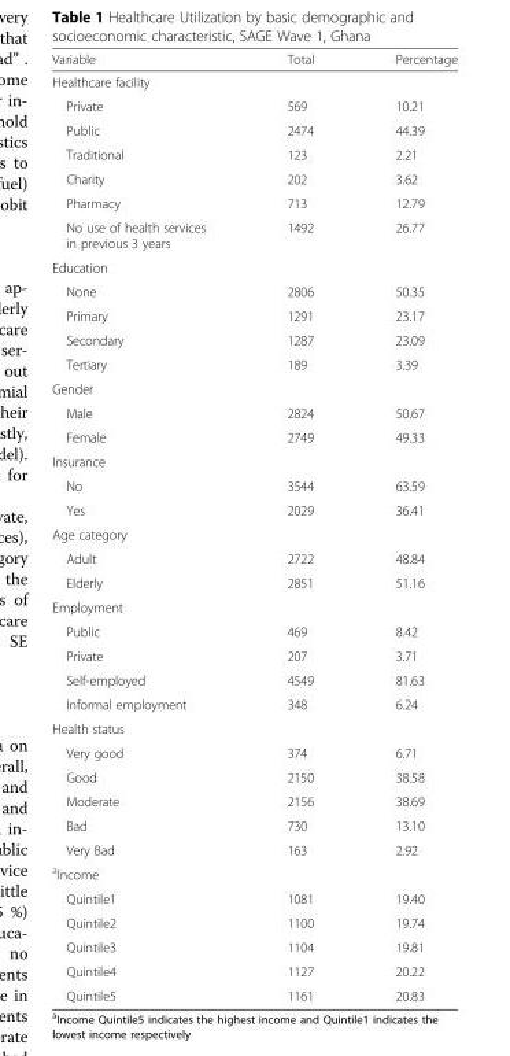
<table><thead><tr><td>Variable</td><td>Total</td><td>Percentage</td></tr></thead><tbody><tr><td colspan="3">Healthcare facility</td></tr><tr><td>Private</td><td>569</td><td>10.21</td></tr><tr><td>Public</td><td>2474</td><td>44.39</td></tr><tr><td>Traditional</td><td>123</td><td>2.21</td></tr><tr><td>Charity</td><td>202</td><td>3.62</td></tr><tr><td>Pharmacy</td><td>713</td><td>12.79</td></tr><tr><td>No use of health services in previous 3 years</td><td>1492</td><td>26.77</td></tr><tr><td colspan="3">Education</td></tr><tr><td>None</td><td>2806</td><td>50.35</td></tr><tr><td>Primary</td><td>1291</td><td>23.17</td></tr><tr><td>Secondary</td><td>1287</td><td>23.09</td></tr><tr><td>Tertiary</td><td>189</td><td>3.39</td></tr><tr><td colspan="3">Gender</td></tr><tr><td>Male</td><td>2824</td><td>50.67</td></tr><tr><td>Female</td><td>2749</td><td>49.33</td></tr><tr><td colspan="3">Insurance</td></tr><tr><td>No</td><td>3544</td><td>63.59</td></tr><tr><td>Yes</td><td>2029</td><td>36.41</td></tr><tr><td colspan="3">Age category</td></tr><tr><td>Adult</td><td>2722</td><td>48.84</td></tr><tr><td>Elderly</td><td>2851</td><td>51.16</td></tr><tr><td colspan="3">Employment</td></tr><tr><td>Public</td><td>469</td><td>8.42</td></tr><tr><td>Private</td><td>207</td><td>3.71</td></tr><tr><td>Self-employed</td><td>4549</td><td>81.63</td></tr><tr><td>Informal employment</td><td>348</td><td>6.24</td></tr><tr><td colspan="3">Health status</td></tr><tr><td>Very good</td><td>374</td><td>6.71</td></tr><tr><td>Good</td><td>2150</td><td>38.58</td></tr><tr><td>Moderate</td><td>2156</td><td>38.69</td></tr><tr><td>Bad</td><td>730</td><td>13.10</td></tr><tr><td>Very Bad</td><td>163</td><td>2.92</td></tr><tr><td colspan="3"><sup>a</sup>Income</td></tr><tr><td>Quintile1</td><td>1081</td><td>19.40</td></tr><tr><td>Quintile2</td><td>1100</td><td>19.74</td></tr><tr><td>Quintile3</td><td>1104</td><td>19.81</td></tr><tr><td>Quintile4</td><td>1127</td><td>20.22</td></tr><tr><td>Quintile5</td><td>1161</td><td>20.83</td></tr></tbody></table>